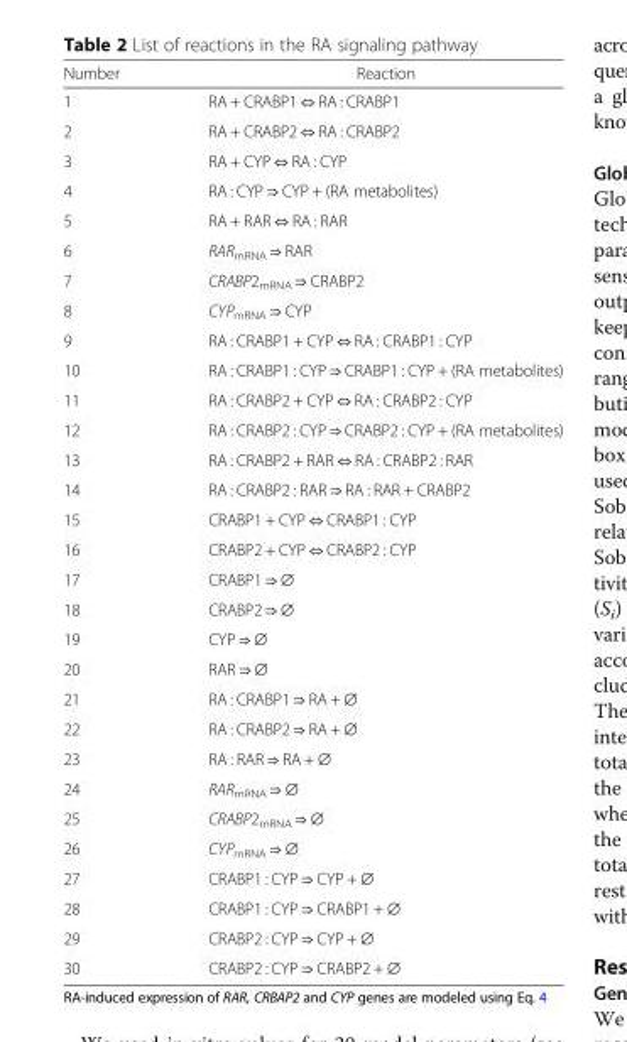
<table><thead><tr><td>Number</td><td>Reaction</td></tr></thead><tbody><tr><td>1</td><td>RA + CRABP1 ⇔ RA : CRABP1</td></tr><tr><td>2</td><td>RA + CRABP2 ⇔ RA : CRABP2</td></tr><tr><td>3</td><td>RA + CYP ⇔ RA : CYP</td></tr><tr><td>4</td><td>RA : CYP ⇒ CYP + (RA metabolites)</td></tr><tr><td>5</td><td>RA + RAR ⇔ RA : RAR</td></tr><tr><td>6</td><td>RAR<sub>mRNA</sub> ⇒ RAR</td></tr><tr><td>7</td><td>CRABP2<sub>mRNA</sub> ⇒ CRABP2</td></tr><tr><td>8</td><td>CYP<sub>mRNA</sub> ⇒ CYP</td></tr><tr><td>9</td><td>RA : CRABP1 + CYP ⇔ RA : CRABP1 : CYP</td></tr><tr><td>10</td><td>RA : CRABP1 : CYP ⇒ CRABP1 : CYP + (RA metabolites)</td></tr><tr><td>11</td><td>RA : CRABP2 + CYP ⇔ RA : CRABP2 : CYP</td></tr><tr><td>12</td><td>RA : CRABP2 : CYP ⇒ CRABP2 : CYP + (RA metabolites)</td></tr><tr><td>13</td><td>RA : CRABP2 + RAR ⇔ RA : CRABP2 : RAR</td></tr><tr><td>14</td><td>RA : CRABP2 : RAR ⇒ RA : RAR + CRABP2</td></tr><tr><td>15</td><td>CRABP1 + CYP ⇔ CRABP1 : CYP</td></tr><tr><td>16</td><td>CRABP2 + CYP ⇔ CRABP2 : CYP</td></tr><tr><td>17</td><td>CRABP1 ⇒ ∅</td></tr><tr><td>18</td><td>CRABP2 ⇒ ∅</td></tr><tr><td>19</td><td>CYP ⇒ ∅</td></tr><tr><td>20</td><td>RAR ⇒ ∅</td></tr><tr><td>21</td><td>RA : CRABP1 ⇒ RA + ∅</td></tr><tr><td>22</td><td>RA : CRABP2 ⇒ RA + ∅</td></tr><tr><td>23</td><td>RA : RAR ⇒ RA + ∅</td></tr><tr><td>24</td><td>RAR<sub>mRNA</sub> ⇒ ∅</td></tr><tr><td>25</td><td>CRABP2<sub>mRNA</sub> ⇒ ∅</td></tr><tr><td>26</td><td>CYP<sub>mRNA</sub> ⇒ ∅</td></tr><tr><td>27</td><td>CRABP1 : CYP ⇒ CYP + ∅</td></tr><tr><td>28</td><td>CRABP1 : CYP ⇒ CRABP1 + ∅</td></tr><tr><td>29</td><td>CRABP2 : CYP ⇒ CYP + ∅</td></tr><tr><td>30</td><td>CRABP2 : CYP ⇒ CRABP2 + ∅</td></tr></tbody></table>